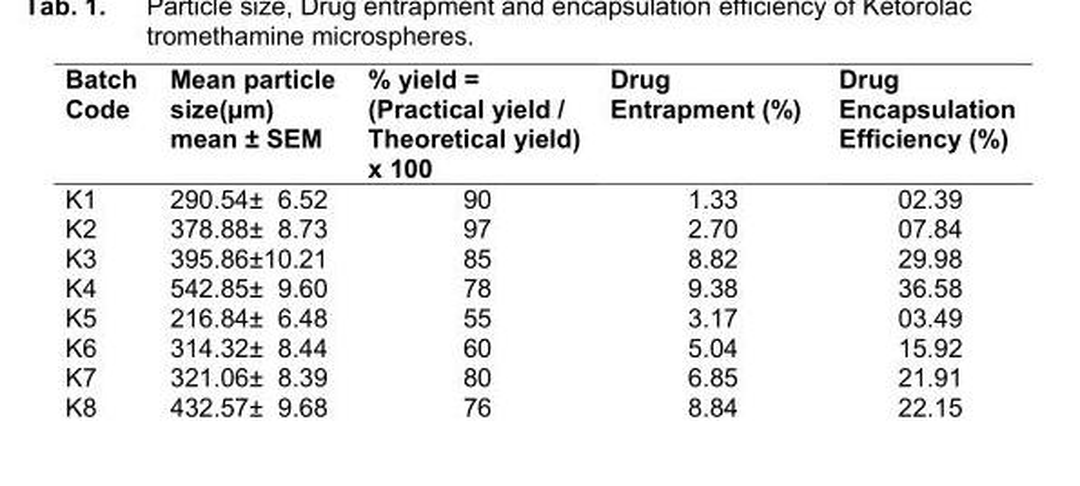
<table><thead><tr><td>Batch Code</td><td>Mean particle size(µm) mean ± SEM</td><td>% yield = (Practical yield / Theoretical yield) x 100</td><td>Drug Entrapment (%)</td><td>Drug Encapsulation Efficiency (%)</td></tr></thead><tbody><tr><td>K1</td><td>290.54± 6.52</td><td>90</td><td>1.33</td><td>02.39</td></tr><tr><td>K2</td><td>378.88± 8.73</td><td>97</td><td>2.70</td><td>07.84</td></tr><tr><td>K3</td><td>395.86±10.21</td><td>85</td><td>8.82</td><td>29.98</td></tr><tr><td>K4</td><td>542.85± 9.60</td><td>78</td><td>9.38</td><td>36.58</td></tr><tr><td>K5</td><td>216.84± 6.48</td><td>55</td><td>3.17</td><td>03.49</td></tr><tr><td>K6</td><td>314.32± 8.44</td><td>60</td><td>5.04</td><td>15.92</td></tr><tr><td>K7</td><td>321.06± 8.39</td><td>80</td><td>6.85</td><td>21.91</td></tr><tr><td>K8</td><td>432.57± 9.68</td><td>76</td><td>8.84</td><td>22.15</td></tr></tbody></table>